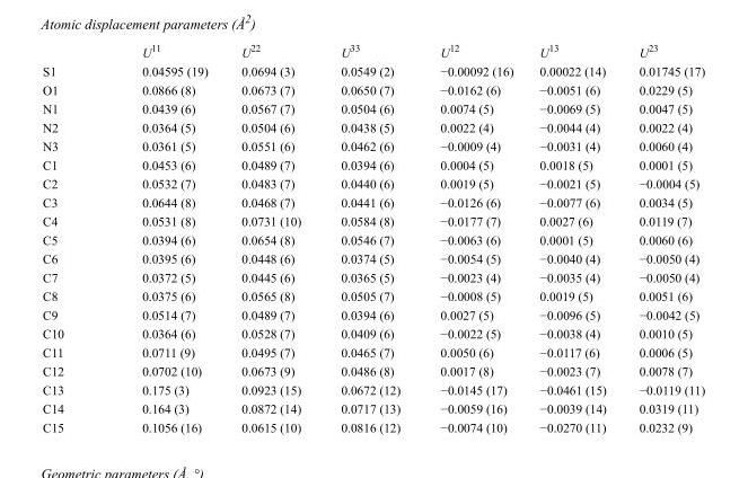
<table><thead><tr><td></td><td>U<sup>11</sup></td><td>U<sup>22</sup></td><td>U<sup>33</sup></td><td>U<sup>12</sup></td><td>U<sup>13</sup></td><td>U<sup>23</sup></td></tr></thead><tbody><tr><td>S1</td><td>0.04595 (19)</td><td>0.0694 (3)</td><td>0.0549 (2)</td><td>−0.00092 (16)</td><td>0.00022 (14)</td><td>0.01745 (17)</td></tr><tr><td>O1</td><td>0.0866 (8)</td><td>0.0673 (7)</td><td>0.0650 (7)</td><td>−0.0162 (6)</td><td>−0.0051 (6)</td><td>0.0229 (5)</td></tr><tr><td>N1</td><td>0.0439 (6)</td><td>0.0567 (7)</td><td>0.0504 (6)</td><td>0.0074 (5)</td><td>−0.0069 (5)</td><td>0.0047 (5)</td></tr><tr><td>N2</td><td>0.0364 (5)</td><td>0.0504 (6)</td><td>0.0438 (5)</td><td>0.0022 (4)</td><td>−0.0044 (4)</td><td>0.0022 (4)</td></tr><tr><td>N3</td><td>0.0361 (5)</td><td>0.0551 (6)</td><td>0.0462 (6)</td><td>−0.0009 (4)</td><td>−0.0031 (4)</td><td>0.0060 (4)</td></tr><tr><td>C1</td><td>0.0453 (6)</td><td>0.0489 (7)</td><td>0.0394 (6)</td><td>0.0004 (5)</td><td>0.0018 (5)</td><td>0.0001 (5)</td></tr><tr><td>C2</td><td>0.0532 (7)</td><td>0.0483 (7)</td><td>0.0440 (6)</td><td>0.0019 (5)</td><td>−0.0021 (5)</td><td>−0.0004 (5)</td></tr><tr><td>C3</td><td>0.0644 (8)</td><td>0.0468 (7)</td><td>0.0441 (6)</td><td>−0.0126 (6)</td><td>−0.0077 (6)</td><td>0.0034 (5)</td></tr><tr><td>C4</td><td>0.0531 (8)</td><td>0.0731 (10)</td><td>0.0584 (8)</td><td>−0.0177 (7)</td><td>0.0027 (6)</td><td>0.0119 (7)</td></tr><tr><td>C5</td><td>0.0394 (6)</td><td>0.0654 (8)</td><td>0.0546 (7)</td><td>−0.0063 (6)</td><td>0.0001 (5)</td><td>0.0060 (6)</td></tr><tr><td>C6</td><td>0.0395 (6)</td><td>0.0448 (6)</td><td>0.0374 (5)</td><td>−0.0054 (5)</td><td>−0.0040 (4)</td><td>−0.0050 (4)</td></tr><tr><td>C7</td><td>0.0372 (5)</td><td>0.0445 (6)</td><td>0.0365 (5)</td><td>−0.0023 (4)</td><td>−0.0035 (4)</td><td>−0.0050 (4)</td></tr><tr><td>C8</td><td>0.0375 (6)</td><td>0.0565 (8)</td><td>0.0505 (7)</td><td>−0.0008 (5)</td><td>0.0019 (5)</td><td>0.0051 (6)</td></tr><tr><td>C9</td><td>0.0514 (7)</td><td>0.0489 (7)</td><td>0.0394 (6)</td><td>0.0027 (5)</td><td>−0.0096 (5)</td><td>−0.0042 (5)</td></tr><tr><td>C10</td><td>0.0364 (6)</td><td>0.0528 (7)</td><td>0.0409 (6)</td><td>−0.0022 (5)</td><td>−0.0038 (4)</td><td>0.0010 (5)</td></tr><tr><td>C11</td><td>0.0711 (9)</td><td>0.0495 (7)</td><td>0.0465 (7)</td><td>0.0050 (6)</td><td>−0.0117 (6)</td><td>0.0006 (5)</td></tr><tr><td>C12</td><td>0.0702 (10)</td><td>0.0673 (9)</td><td>0.0486 (8)</td><td>0.0017 (8)</td><td>−0.0023 (7)</td><td>0.0078 (7)</td></tr><tr><td>C13</td><td>0.175 (3)</td><td>0.0923 (15)</td><td>0.0672 (12)</td><td>−0.0145 (17)</td><td>−0.0461 (15)</td><td>−0.0119 (11)</td></tr><tr><td>C14</td><td>0.164 (3)</td><td>0.0872 (14)</td><td>0.0717 (13)</td><td>−0.0059 (16)</td><td>−0.0039 (14)</td><td>0.0319 (11)</td></tr><tr><td>C15</td><td>0.1056 (16)</td><td>0.0615 (10)</td><td>0.0816 (12)</td><td>−0.0074 (10)</td><td>−0.0270 (11)</td><td>0.0232 (9)</td></tr></tbody></table>